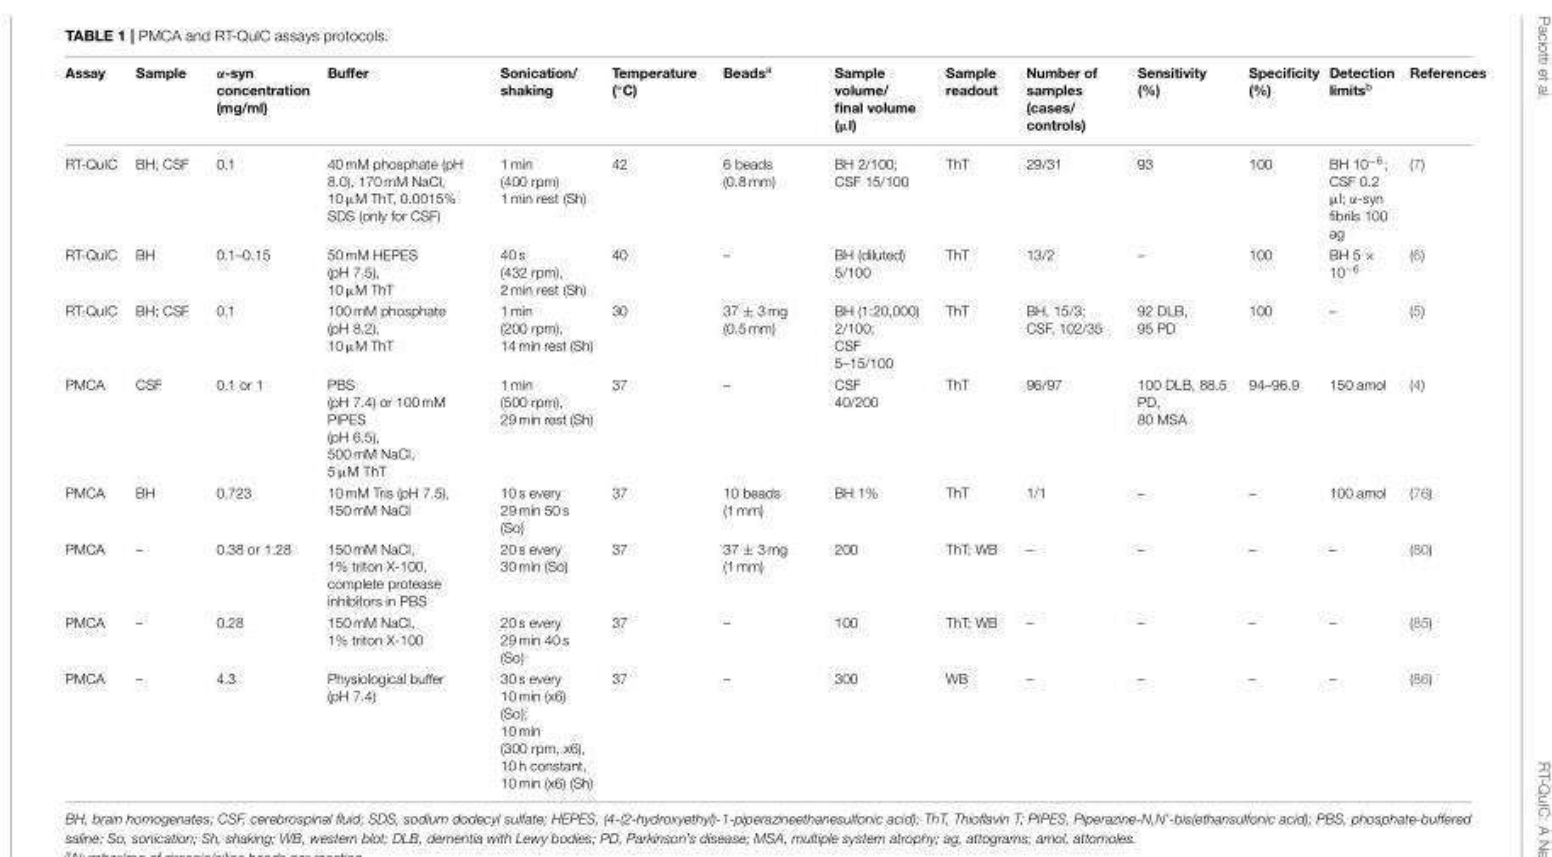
<table><thead><tr><td>Assay</td><td>Sample</td><td>α-syn concentration (mg/ml)</td><td>Buffer</td><td>Sonication/ shaking</td><td>Temperature (◦C)</td><td>Beads<sup>a</sup></td><td>Sample volume/ final volume (µl)</td><td>Sample readout</td><td>Number of samples (cases/ controls)</td><td>Sensitivity (%)</td><td>Specificity (%)</td><td>Detection limits<sup>b</sup></td><td>References</td></tr></thead><tbody><tr><td>RT-QuIC</td><td>BH; CSF</td><td>0.1</td><td>40 mM phosphate (pH 8.0), 170 mM NaCl, 10 µM ThT, 0.0015% SDS (only for CSF)</td><td>1 min (400 rpm) 1 min rest (Sh)</td><td>42</td><td>6 beads (0.8 mm)</td><td>BH 2/100; CSF 15/100</td><td>ThT</td><td>29/31</td><td>93</td><td>100</td><td>BH 10<sup>−6</sup>; CSF 0.2 µl; α-syn fibrils 100 ag</td><td>(7)</td></tr><tr><td>RT-QuIC</td><td>BH</td><td>0.1–0.15</td><td>50 mM HEPES (pH 7.5), 10 µM ThT</td><td>40 s (432 rpm), 2 min rest (Sh)</td><td>40</td><td>–</td><td>BH (diluted) 5/100</td><td>ThT</td><td>13/2</td><td>–</td><td>100</td><td>BH 5 × 10<sup>−6</sup></td><td>(6)</td></tr><tr><td>RT-QuIC</td><td>BH; CSF</td><td>0.1</td><td>100 mM phosphate (pH 8.2), 10 µM ThT</td><td>1 min (200 rpm), 14 min rest (Sh)</td><td>30</td><td>37 ± 3 mg (0.5 mm)</td><td>BH (1:20,000) 2/100; CSF 5–15/100</td><td>ThT</td><td>BH, 15/3; CSF, 102/35</td><td>92 DLB, 95 PD</td><td>100</td><td>–</td><td>(5)</td></tr><tr><td>PMCA</td><td>CSF</td><td>0.1 or 1</td><td>PBS (pH 7.4) or 100 mM PIPES (pH 6.5), 500 mM NaCl, 5 µM ThT</td><td>1 min (500 rpm), 29 min rest (Sh)</td><td>37</td><td>–</td><td>CSF 40/200</td><td>ThT</td><td>96/97</td><td>100 DLB, 88.5 PD, 80 MSA</td><td>94–96.9</td><td>150 amol</td><td>(4)</td></tr><tr><td>PMCA</td><td>BH</td><td>0.723</td><td>10 mM Tris (pH 7.5), 150 mM NaCl</td><td>10 s every 29 min 50 s (So)</td><td>37</td><td>10 beads (1 mm)</td><td>BH 1%</td><td>ThT</td><td>1/1</td><td>–</td><td>–</td><td>100 amol</td><td>(76)</td></tr><tr><td>PMCA</td><td>–</td><td>0.38 or 1.28</td><td>150 mM NaCl, 1% triton X-100, complete protease inhibitors in PBS</td><td>20 s every 30 min (So)</td><td>37</td><td>37 ± 3 mg (1 mm)</td><td>200</td><td>ThT; WB</td><td>–</td><td>–</td><td>–</td><td>–</td><td>(80)</td></tr><tr><td>PMCA</td><td>–</td><td>0.28</td><td>150 mM NaCl, 1% triton X-100</td><td>20 s every 29 min 40 s (So)</td><td>37</td><td>–</td><td>100</td><td>ThT; WB</td><td>–</td><td>–</td><td>–</td><td>–</td><td>(85)</td></tr><tr><td>PMCA</td><td>–</td><td>4.3</td><td>Physiological buffer (pH 7.4)</td><td>30 s every 10 min (x6) (So); 10 min (300 rpm, x6), 10 h constant, 10 min (x6) (Sh)</td><td>37</td><td>–</td><td>300</td><td>WB</td><td>–</td><td>–</td><td>–</td><td>–</td><td>(86)</td></tr></tbody></table>